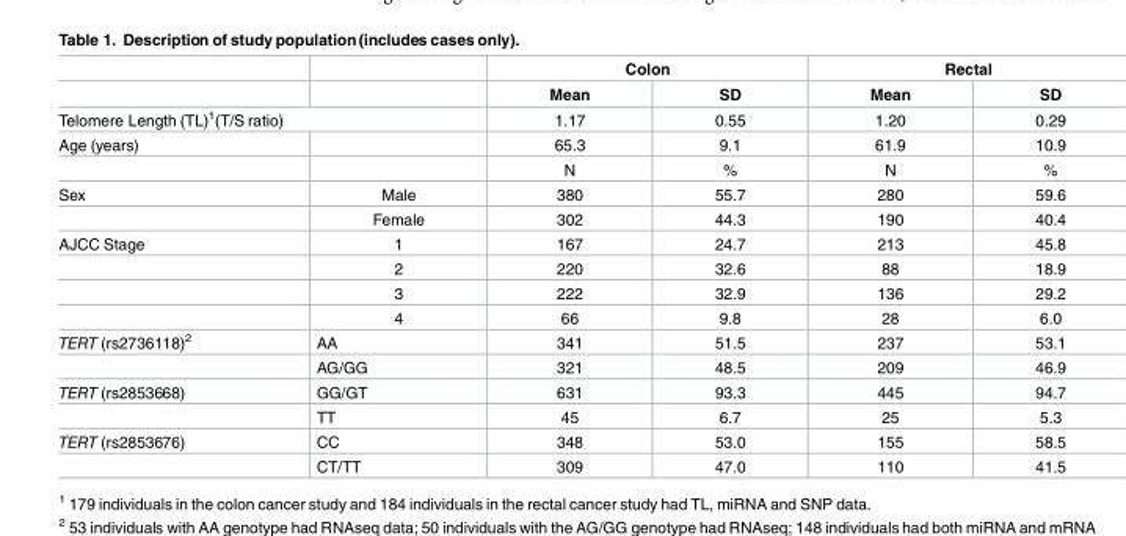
<table><thead><tr><td rowspan="2"></td><td rowspan="2"></td><td colspan="2">Colon</td><td colspan="2">Rectal</td></tr><tr><td>Mean</td><td>SD</td><td>Mean</td><td>SD</td></tr></thead><tbody><tr><td colspan="2">Telomere Length (TL)<sup>1</sup>(T/S ratio)</td><td>1.17</td><td>0.55</td><td>1.20</td><td>0.29</td></tr><tr><td rowspan="2">Age (years)</td><td></td><td>65.3</td><td>9.1</td><td>61.9</td><td>10.9</td></tr><tr><td></td><td>N</td><td>%</td><td>N</td><td>%</td></tr><tr><td rowspan="2">Sex</td><td>Male</td><td>380</td><td>55.7</td><td>280</td><td>59.6</td></tr><tr><td>Female</td><td>302</td><td>44.3</td><td>190</td><td>40.4</td></tr><tr><td rowspan="4">AJCC Stage</td><td>1</td><td>167</td><td>24.7</td><td>213</td><td>45.8</td></tr><tr><td>2</td><td>220</td><td>32.6</td><td>88</td><td>18.9</td></tr><tr><td>3</td><td>222</td><td>32.9</td><td>136</td><td>29.2</td></tr><tr><td>4</td><td>66</td><td>9.8</td><td>28</td><td>6.0</td></tr><tr><td rowspan="2">TERT (rs2736118)<sup>2</sup></td><td>AA</td><td>341</td><td>51.5</td><td>237</td><td>53.1</td></tr><tr><td>AG/GG</td><td>321</td><td>48.5</td><td>209</td><td>46.9</td></tr><tr><td rowspan="2">TERT (rs2853668)</td><td>GG/GT</td><td>631</td><td>93.3</td><td>445</td><td>94.7</td></tr><tr><td>TT</td><td>45</td><td>6.7</td><td>25</td><td>5.3</td></tr><tr><td rowspan="2">TERT (rs2853676)</td><td>CC</td><td>348</td><td>53.0</td><td>155</td><td>58.5</td></tr><tr><td>CT/TT</td><td>309</td><td>47.0</td><td>110</td><td>41.5</td></tr></tbody></table>